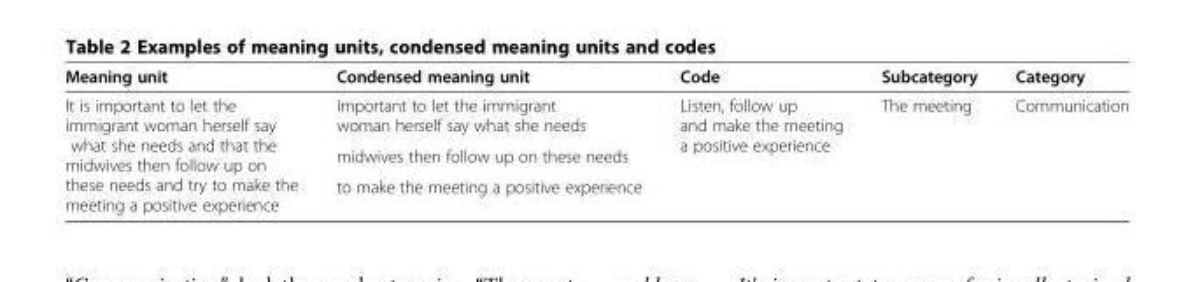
<table><thead><tr><td>Meaning unit</td><td>Condensed meaning unit</td><td>Code</td><td>Subcategory</td><td>Category</td></tr></thead><tbody><tr><td rowspan="3">It is important to let the immigrant woman herself say what she needs and that the midwives then follow up on these needs and try to make the meeting a positive experience</td><td>Important to let the immigrant woman herself say what she needs</td><td rowspan="3">Listen, follow up and make the meeting a positive experience</td><td rowspan="3">The meeting</td><td rowspan="3">Communication</td></tr><tr><td>midwives then follow up on these needs</td></tr><tr><td>to make the meeting a positive experience</td></tr></tbody></table>